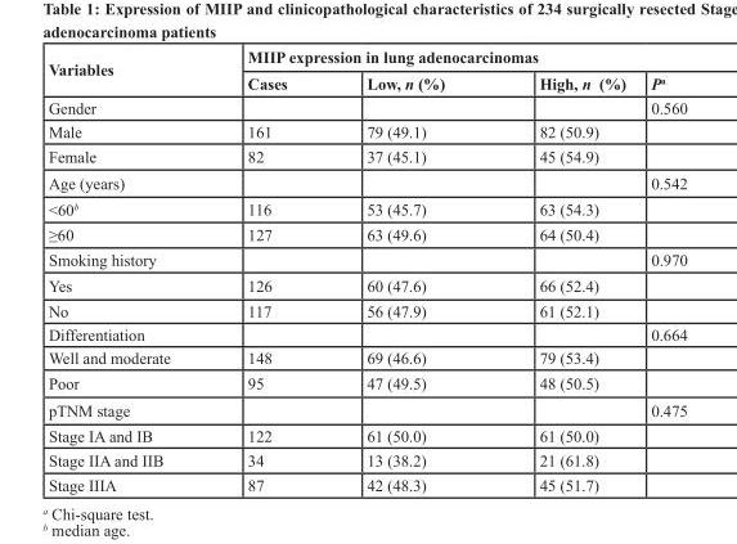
<table><thead><tr><td rowspan="2">Variables</td><td colspan="4">MIIP expression in lung adenocarcinomas</td></tr><tr><td>Cases</td><td>Low, n (%)</td><td>High, n (%)</td><td>P<sup>a</sup></td></tr></thead><tbody><tr><td>Gender</td><td></td><td></td><td></td><td>0.560</td></tr><tr><td>Male</td><td>161</td><td>79 (49.1)</td><td>82 (50.9)</td><td></td></tr><tr><td>Female</td><td>82</td><td>37 (45.1)</td><td>45 (54.9)</td><td></td></tr><tr><td>Age (years)</td><td></td><td></td><td></td><td>0.542</td></tr><tr><td>&lt;60<sup>b</sup></td><td>116</td><td>53 (45.7)</td><td>63 (54.3)</td><td></td></tr><tr><td>≥60</td><td>127</td><td>63 (49.6)</td><td>64 (50.4)</td><td></td></tr><tr><td>Smoking history</td><td></td><td></td><td></td><td>0.970</td></tr><tr><td>Yes</td><td>126</td><td>60 (47.6)</td><td>66 (52.4)</td><td></td></tr><tr><td>No</td><td>117</td><td>56 (47.9)</td><td>61 (52.1)</td><td></td></tr><tr><td>Differentiation</td><td></td><td></td><td></td><td>0.664</td></tr><tr><td>Well and moderate</td><td>148</td><td>69 (46.6)</td><td>79 (53.4)</td><td></td></tr><tr><td>Poor</td><td>95</td><td>47 (49.5)</td><td>48 (50.5)</td><td></td></tr><tr><td>pTNM stage</td><td></td><td></td><td></td><td>0.475</td></tr><tr><td>Stage IA and IB</td><td>122</td><td>61 (50.0)</td><td>61 (50.0)</td><td></td></tr><tr><td>Stage IIA and IIB</td><td>34</td><td>13 (38.2)</td><td>21 (61.8)</td><td></td></tr><tr><td>Stage IIIA</td><td>87</td><td>42 (48.3)</td><td>45 (51.7)</td><td></td></tr></tbody></table>